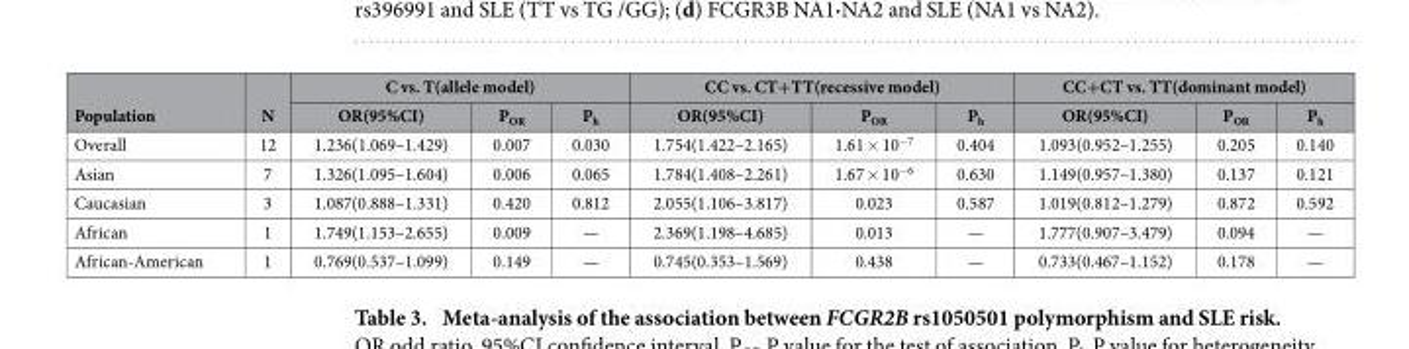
<table><thead><tr><td rowspan="2">Population</td><td rowspan="2">N</td><td colspan="3">C vs. T(allele model)</td><td colspan="3">CC vs. CT+TT(recessive model)</td><td colspan="3">CC+CT vs. TT(dominant model)</td></tr><tr><td>OR(95%CI)</td><td>P<sub>OR</sub></td><td>P<sub>h</sub></td><td>OR(95%CI)</td><td>P<sub>OR</sub></td><td>P<sub>h</sub></td><td>OR(95%CI)</td><td>P<sub>OR</sub></td><td>P<sub>h</sub></td></tr></thead><tbody><tr><td>Overall</td><td>12</td><td>1.236(1.069–1.429)</td><td>0.007</td><td>0.030</td><td>1.754(1.422–2.165)</td><td>1.61 × 10<sup>−7</sup></td><td>0.404</td><td>1.093(0.952–1.255)</td><td>0.205</td><td>0.140</td></tr><tr><td>Asian</td><td>7</td><td>1.326(1.095–1.604)</td><td>0.006</td><td>0.065</td><td>1.784(1.408–2.261)</td><td>1.67 × 10<sup>−6</sup></td><td>0.630</td><td>1.149(0.957–1.380)</td><td>0.137</td><td>0.121</td></tr><tr><td>Caucasian</td><td>3</td><td>1.087(0.888–1.331)</td><td>0.420</td><td>0.812</td><td>2.055(1.106–3.817)</td><td>0.023</td><td>0.587</td><td>1.019(0.812–1.279)</td><td>0.872</td><td>0.592</td></tr><tr><td>African</td><td>1</td><td>1.749(1.153–2.655)</td><td>0.009</td><td>—</td><td>2.369(1.198–4.685)</td><td>0.013</td><td>—</td><td>1.777(0.907–3.479)</td><td>0.094</td><td>—</td></tr><tr><td>African-American</td><td>1</td><td>0.769(0.537–1.099)</td><td>0.149</td><td>—</td><td>0.745(0.353–1.569)</td><td>0.438</td><td>—</td><td>0.733(0.467–1.152)</td><td>0.178</td><td>—</td></tr></tbody></table>